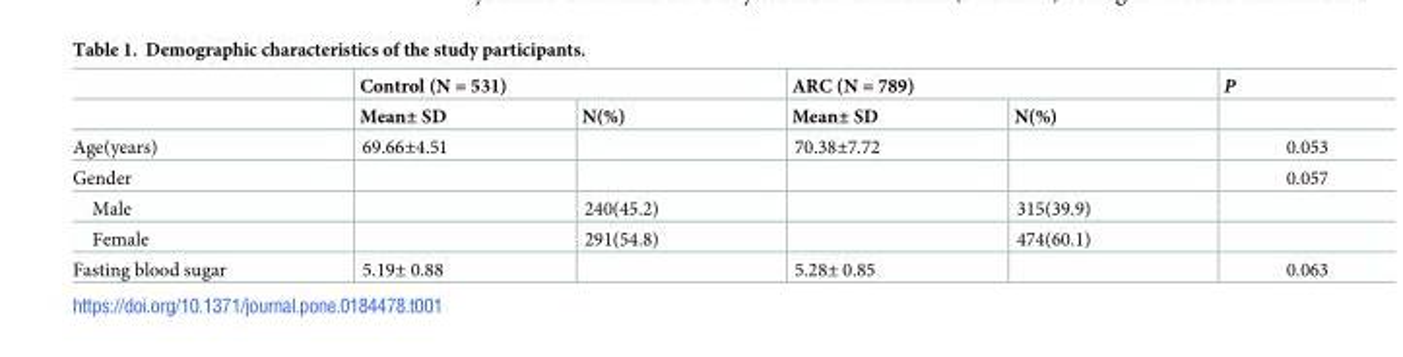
<table><thead><tr><td rowspan="2"></td><td colspan="2">Control (N = 531)</td><td colspan="2">ARC (N = 789)</td><td rowspan="2">P</td></tr><tr><td>Mean± SD</td><td>N(%)</td><td>Mean± SD</td><td>N(%)</td></tr></thead><tbody><tr><td>Age(years)</td><td>69.66±4.51</td><td></td><td>70.38±7.72</td><td></td><td>0.053</td></tr><tr><td>Gender</td><td></td><td></td><td></td><td></td><td>0.057</td></tr><tr><td>Male</td><td></td><td>240(45.2)</td><td></td><td>315(39.9)</td><td></td></tr><tr><td>Female</td><td></td><td>291(54.8)</td><td></td><td>474(60.1)</td><td></td></tr><tr><td>Fasting blood sugar</td><td>5.19± 0.88</td><td></td><td>5.28± 0.85</td><td></td><td>0.063</td></tr></tbody></table>